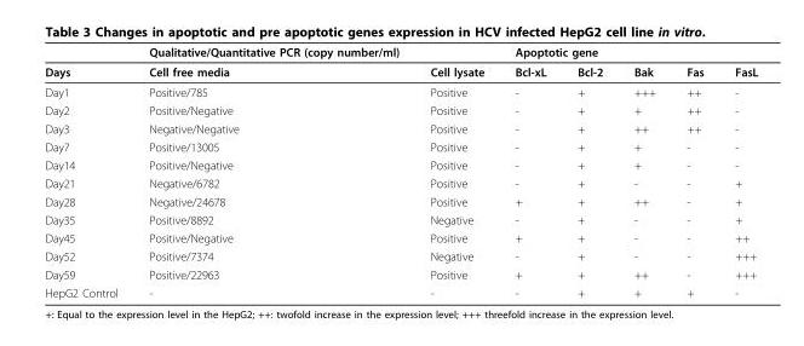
<table><thead><tr><td rowspan="2">Days</td><td rowspan="2">Qualitative/Quantitative PCR (copy number/ml) Cell free media</td><td rowspan="2">Cell lysate</td><td colspan="5">Apoptotic gene</td></tr><tr><td>Bcl-xL</td><td>Bcl-2</td><td>Bak</td><td>Fas</td><td>FasL</td></tr></thead><tbody><tr><td>Day1</td><td>Positive/785</td><td>Positive</td><td>-</td><td>+</td><td>+++</td><td>++</td><td>-</td></tr><tr><td>Day2</td><td>Positive/Negative</td><td>Positive</td><td>-</td><td>+</td><td>+</td><td>++</td><td>-</td></tr><tr><td>Day3</td><td>Negative/Negative</td><td>Positive</td><td>-</td><td>+</td><td>++</td><td>++</td><td>-</td></tr><tr><td>Day7</td><td>Positive/13005</td><td>Positive</td><td>-</td><td>+</td><td>+</td><td>-</td><td>-</td></tr><tr><td>Day14</td><td>Positive/Negative</td><td>Positive</td><td>-</td><td>+</td><td>+</td><td>-</td><td>-</td></tr><tr><td>Day21</td><td>Negative/6782</td><td>Positive</td><td>-</td><td>+</td><td>-</td><td>-</td><td>+</td></tr><tr><td>Day28</td><td>Negative/24678</td><td>Positive</td><td>+</td><td>+</td><td>++</td><td>-</td><td>+</td></tr><tr><td>Day35</td><td>Positive/8892</td><td>Negative</td><td>-</td><td>+</td><td>-</td><td>-</td><td>+</td></tr><tr><td>Day45</td><td>Positive/Negative</td><td>Positive</td><td>+</td><td>+</td><td>-</td><td>-</td><td>++</td></tr><tr><td>Day52</td><td>Positive/7374</td><td>Negative</td><td>-</td><td>+</td><td>-</td><td>-</td><td>+++</td></tr><tr><td>Day59</td><td>Positive/22963</td><td>Positive</td><td>+</td><td>+</td><td>++</td><td>-</td><td>+++</td></tr><tr><td>HepG2 Control</td><td>-</td><td>-</td><td>-</td><td>+</td><td>+</td><td>+</td><td>-</td></tr></tbody></table>